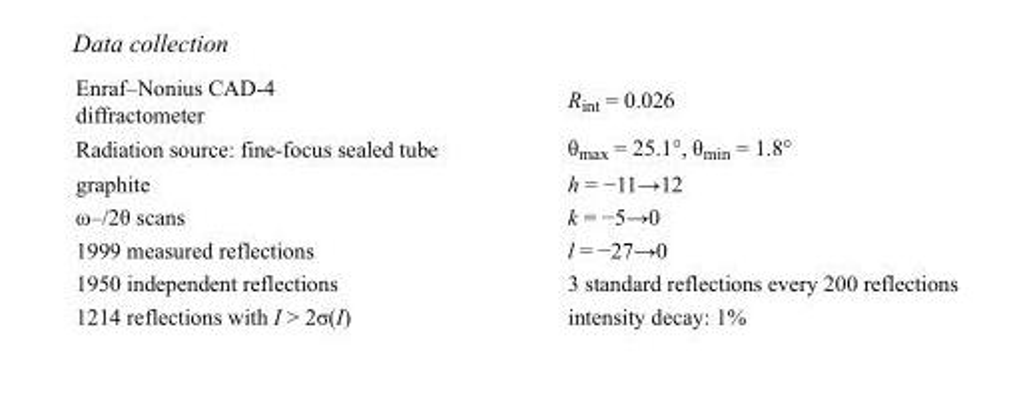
<table><tbody><tr><td>Enraf–Nonius CAD-4 diffractometer</td><td>R<sub>int</sub> = 0.026</td></tr><tr><td>Radiation source: fine-focus sealed tube</td><td>θ<sub>max</sub> = 25.1°, θ<sub>min</sub> = 1.8°</td></tr><tr><td>graphite</td><td>h = −11→12</td></tr><tr><td>ω–/2θ scans</td><td>k = −5→0</td></tr><tr><td>1999 measured reflections</td><td>l = −27→0</td></tr><tr><td>1950 independent reflections</td><td>3 standard reflections every 200 reflections</td></tr><tr><td>1214 reflections with I &gt; 2σ(I)</td><td>intensity decay: 1%</td></tr></tbody></table>